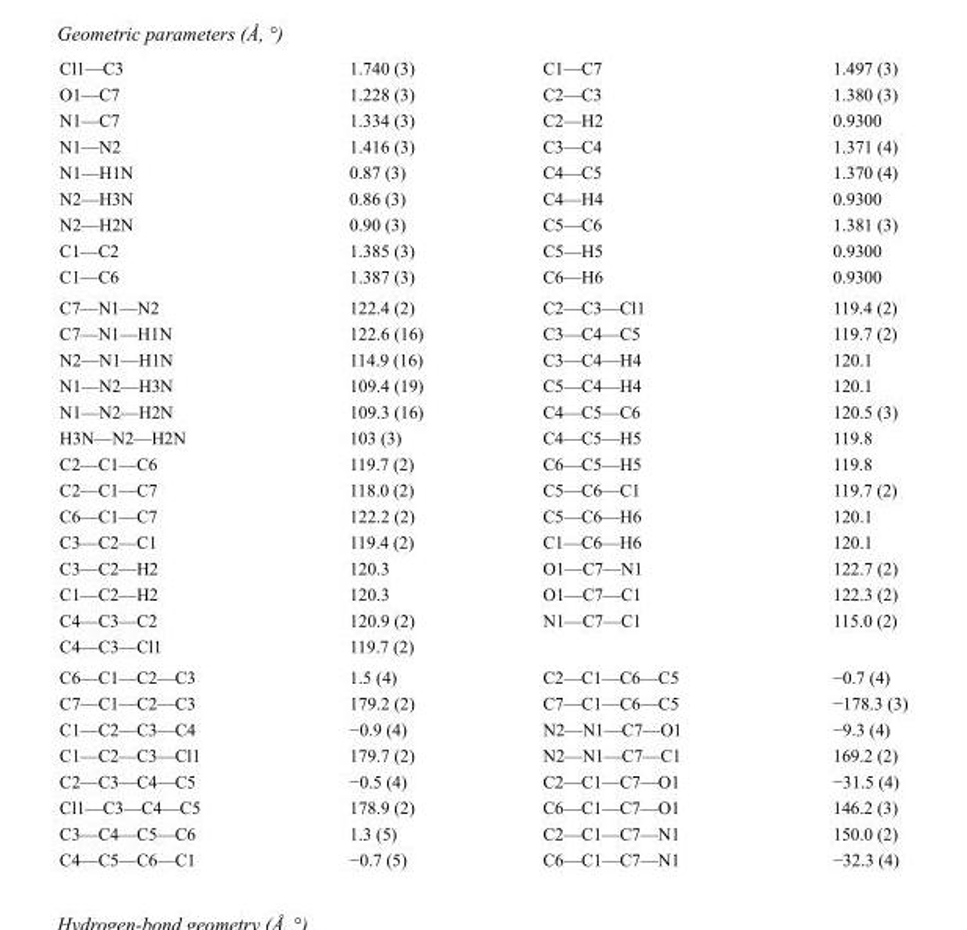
<table><tbody><tr><td>Cl1—C3</td><td>1.740 (3)</td><td>C1—C7</td><td>1.497 (3)</td></tr><tr><td>O1—C7</td><td>1.228 (3)</td><td>C2—C3</td><td>1.380 (3)</td></tr><tr><td>N1—C7</td><td>1.334 (3)</td><td>C2—H2</td><td>0.9300</td></tr><tr><td>N1—N2</td><td>1.416 (3)</td><td>C3—C4</td><td>1.371 (4)</td></tr><tr><td>N1—H1N</td><td>0.87 (3)</td><td>C4—C5</td><td>1.370 (4)</td></tr><tr><td>N2—H3N</td><td>0.86 (3)</td><td>C4—H4</td><td>0.9300</td></tr><tr><td>N2—H2N</td><td>0.90 (3)</td><td>C5—C6</td><td>1.381 (3)</td></tr><tr><td>C1—C2</td><td>1.385 (3)</td><td>C5—H5</td><td>0.9300</td></tr><tr><td>C1—C6</td><td>1.387 (3)</td><td>C6—H6</td><td>0.9300</td></tr><tr><td>C7—N1—N2</td><td>122.4 (2)</td><td>C2—C3—Cl1</td><td>119.4 (2)</td></tr><tr><td>C7—N1—H1N</td><td>122.6 (16)</td><td>C3—C4—C5</td><td>119.7 (2)</td></tr><tr><td>N2—N1—H1N</td><td>114.9 (16)</td><td>C3—C4—H4</td><td>120.1</td></tr><tr><td>N1—N2—H3N</td><td>109.4 (19)</td><td>C5—C4—H4</td><td>120.1</td></tr><tr><td>N1—N2—H2N</td><td>109.3 (16)</td><td>C4—C5—C6</td><td>120.5 (3)</td></tr><tr><td>H3N—N2—H2N</td><td>103 (3)</td><td>C4—C5—H5</td><td>119.8</td></tr><tr><td>C2—C1—C6</td><td>119.7 (2)</td><td>C6—C5—H5</td><td>119.8</td></tr><tr><td>C2—C1—C7</td><td>118.0 (2)</td><td>C5—C6—C1</td><td>119.7 (2)</td></tr><tr><td>C6—C1—C7</td><td>122.2 (2)</td><td>C5—C6—H6</td><td>120.1</td></tr><tr><td>C3—C2—C1</td><td>119.4 (2)</td><td>C1—C6—H6</td><td>120.1</td></tr><tr><td>C3—C2—H2</td><td>120.3</td><td>O1—C7—N1</td><td>122.7 (2)</td></tr><tr><td>C1—C2—H2</td><td>120.3</td><td>O1—C7—C1</td><td>122.3 (2)</td></tr><tr><td>C4—C3—C2</td><td>120.9 (2)</td><td>N1—C7—C1</td><td>115.0 (2)</td></tr><tr><td>C4—C3—Cl1</td><td>119.7 (2)</td><td></td><td></td></tr><tr><td>C6—C1—C2—C3</td><td>1.5 (4)</td><td>C2—C1—C6—C5</td><td>−0.7 (4)</td></tr><tr><td>C7—C1—C2—C3</td><td>179.2 (2)</td><td>C7—C1—C6—C5</td><td>−178.3 (3)</td></tr><tr><td>C1—C2—C3—C4</td><td>−0.9 (4)</td><td>N2—N1—C7—O1</td><td>−9.3 (4)</td></tr><tr><td>C1—C2—C3—Cl1</td><td>179.7 (2)</td><td>N2—N1—C7—C1</td><td>169.2 (2)</td></tr><tr><td>C2—C3—C4—C5</td><td>−0.5 (4)</td><td>C2—C1—C7—O1</td><td>−31.5 (4)</td></tr><tr><td>Cl1—C3—C4—C5</td><td>178.9 (2)</td><td>C6—C1—C7—O1</td><td>146.2 (3)</td></tr><tr><td>C3—C4—C5—C6</td><td>1.3 (5)</td><td>C2—C1—C7—N1</td><td>150.0 (2)</td></tr><tr><td>C4—C5—C6—C1</td><td>−0.7 (5)</td><td>C6—C1—C7—N1</td><td>−32.3 (4)</td></tr></tbody></table>